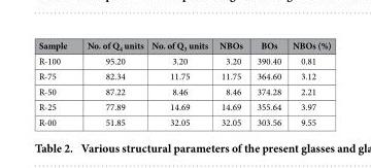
<table><thead><tr><td>Sample</td><td>No. of Q<sub>4</sub> units</td><td>No. of Q<sub>3</sub> units</td><td>NBOs</td><td>BOs</td><td>NBOs (%)</td></tr></thead><tbody><tr><td>R-100</td><td>95.20</td><td>3.20</td><td>3.20</td><td>390.40</td><td>0.81</td></tr><tr><td>R-75</td><td>82.34</td><td>11.75</td><td>11.75</td><td>364.60</td><td>3.12</td></tr><tr><td>R-50</td><td>87.22</td><td>8.46</td><td>8.46</td><td>374.28</td><td>2.21</td></tr><tr><td>R-25</td><td>77.89</td><td>14.69</td><td>14.69</td><td>355.64</td><td>3.97</td></tr><tr><td>R-00</td><td>51.85</td><td>32.05</td><td>32.05</td><td>303.56</td><td>9.55</td></tr></tbody></table>